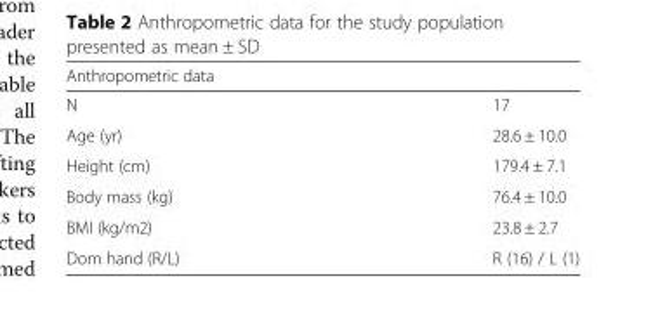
<table><thead><tr><td colspan="2">Anthropometric data</td></tr><tr><td>N</td><td>17</td></tr></thead><tbody><tr><td>Age (yr)</td><td>28.6 ± 10.0</td></tr><tr><td>Height (cm)</td><td>179.4 ± 7.1</td></tr><tr><td>Body mass (kg)</td><td>76.4 ± 10.0</td></tr><tr><td>BMI (kg/m2)</td><td>23.8 ± 2.7</td></tr><tr><td>Dom hand (R/L)</td><td>R (16) / L (1)</td></tr></tbody></table>